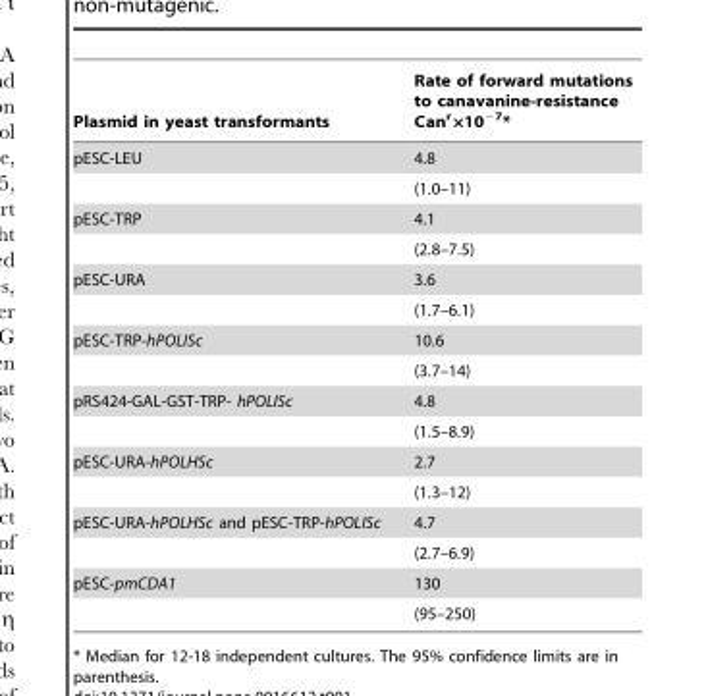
<table><thead><tr><td>Plasmid in yeast transformants</td><td>Rate of forward mutations to canavanine-resistance Can<sup>r</sup>×10<sup>−7</sup>*</td></tr></thead><tbody><tr><td rowspan="2">pESC-LEU</td><td>4.8</td></tr><tr><td>(1.0–11)</td></tr><tr><td rowspan="2">pESC-TRP</td><td>4.1</td></tr><tr><td>(2.8–7.5)</td></tr><tr><td rowspan="2">pESC-URA</td><td>3.6</td></tr><tr><td>(1.7–6.1)</td></tr><tr><td rowspan="2">pESC-TRP-hPOLISc</td><td>10.6</td></tr><tr><td>(3.7–14)</td></tr><tr><td rowspan="2">pRS424-GAL-GST-TRP- hPOLISc</td><td>4.8</td></tr><tr><td>(1.5–8.9)</td></tr><tr><td rowspan="2">pESC-URA-hPOLHSc</td><td>2.7</td></tr><tr><td>(1.3–12)</td></tr><tr><td rowspan="2">pESC-URA-hPOLHSc and pESC-TRP-hPOLISc</td><td>4.7</td></tr><tr><td>(2.7–6.9)</td></tr><tr><td rowspan="2">pESC-pmCDA1</td><td>130</td></tr><tr><td>(95–250)</td></tr></tbody></table>